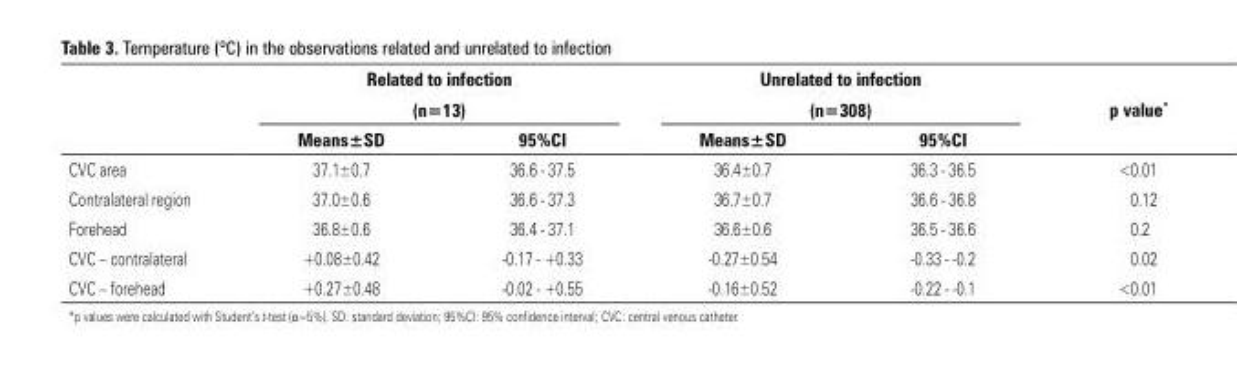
<table><thead><tr><td rowspan="3"></td><td rowspan="2" colspan="2">related to infection (n=13)</td><td rowspan="2" colspan="2">Unrelated to infection (n=308)</td><td rowspan="3">p value*</td></tr><tr></tr><tr><td>Means±SD</td><td>95%ci</td><td>Means±SD</td><td>95%ci</td></tr></thead><tbody><tr><td>CVC area</td><td>37.1±0.7</td><td>36.6 - 37.5</td><td>36.4±0.7</td><td>36.3 - 36.5</td><td>&lt;0.01</td></tr><tr><td>Contralateral region</td><td>37.0±0.6</td><td>36.6 - 37.3</td><td>36.7±0.7</td><td>36.6 - 36.8</td><td>0.12</td></tr><tr><td>Forehead</td><td>36.8±0.6</td><td>36.4 - 37.1</td><td>36.6±0.6</td><td>36.5 - 36.6</td><td>0.20</td></tr><tr><td>CVC – contralateral</td><td>+0.08±0.42</td><td>-0.17 - +0.33</td><td>-0.27±0.54</td><td>-0.33 - -0.2</td><td>0.02</td></tr><tr><td>CVC – forehead</td><td>+0.27±0.48</td><td>-0.02 - +0.55</td><td>-0.16±0.52</td><td>-0.22 - -0.1</td><td>&lt;0.01</td></tr></tbody></table>